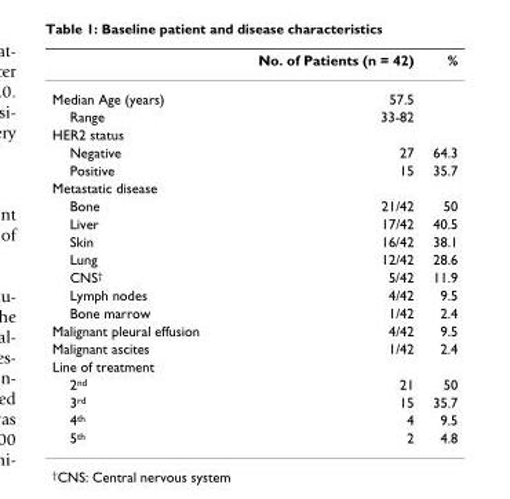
<table><thead><tr><td></td><td>No. of Patients (n = 42)</td><td>%</td></tr></thead><tbody><tr><td>Median Age (years)</td><td>57.5</td><td></td></tr><tr><td>Range</td><td>33-82</td><td></td></tr><tr><td colspan="3">HER2 status</td></tr><tr><td>Negative</td><td>27</td><td>64.3</td></tr><tr><td>Positive</td><td>15</td><td>35.7</td></tr><tr><td colspan="3">Metastatic disease</td></tr><tr><td>Bone</td><td>21/42</td><td>50</td></tr><tr><td>Liver</td><td>17/42</td><td>40.5</td></tr><tr><td>Skin</td><td>16/42</td><td>38.1</td></tr><tr><td>Lung</td><td>12/42</td><td>28.6</td></tr><tr><td>CNS<sup>†</sup></td><td>5/42</td><td>11.9</td></tr><tr><td>Lymph nodes</td><td>4/42</td><td>9.5</td></tr><tr><td>Bone marrow</td><td>1/42</td><td>2.4</td></tr><tr><td>Malignant pleural effusion</td><td>4/42</td><td>9.5</td></tr><tr><td>Malignant ascites</td><td>1/42</td><td>2.4</td></tr><tr><td colspan="3">Line of treatment</td></tr><tr><td>2<sup>nd</sup></td><td>21</td><td>50</td></tr><tr><td>3<sup>rd</sup></td><td>15</td><td>35.7</td></tr><tr><td>4<sup>th</sup></td><td>4</td><td>9.5</td></tr><tr><td>5<sup>th</sup></td><td>2</td><td>4.8</td></tr></tbody></table>